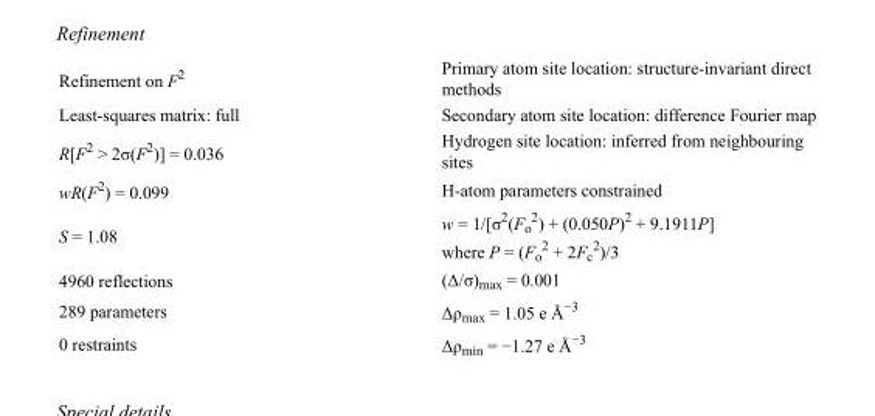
<table><tbody><tr><td>Refinement on F<sup>2</sup></td><td>Primary atom site location: structure-invariant direct methods</td></tr><tr><td>Least-squares matrix: full</td><td>Secondary atom site location: difference Fourier map</td></tr><tr><td>R[F<sup>2</sup> &gt; 2σ(F<sup>2</sup>)] = 0.036</td><td>Hydrogen site location: inferred from neighbouring sites</td></tr><tr><td>wR(F<sup>2</sup>) = 0.099</td><td>H-atom parameters constrained</td></tr><tr><td>S = 1.08</td><td>w = 1/[σ<sup>2</sup>(F<sub>o</sub> <sup>2</sup>) + (0.050P)<sup>2</sup> + 9.1911P] where P = (F<sub>o</sub> <sup>2</sup> + 2F<sub>c</sub> <sup>2</sup>)/3</td></tr><tr><td>4960 reflections</td><td>(Δ/σ)<sub>max</sub> = 0.001</td></tr><tr><td>289 parameters</td><td>Δρ<sub>max</sub> = 1.05 e Å<sup>−3</sup></td></tr><tr><td>0 restraints</td><td>Δρ<sub>min</sub> = −1.27 e Å<sup>−3</sup></td></tr></tbody></table>